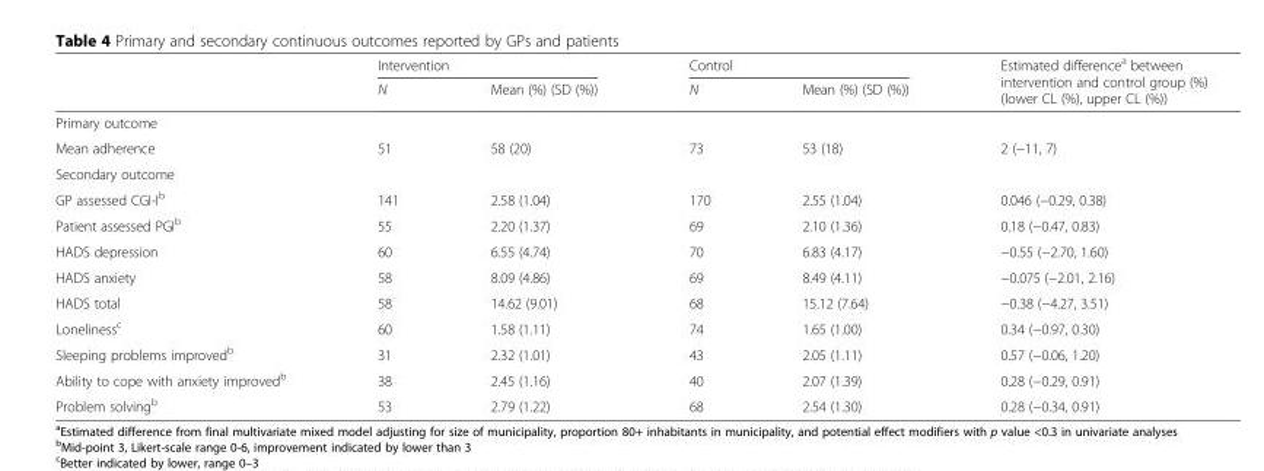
<table><thead><tr><td rowspan="2"></td><td colspan="2">Intervention</td><td colspan="2">Control</td><td rowspan="2">Estimated difference<sup>a</sup> between intervention and control group (%) (lower CL (%), upper CL (%))</td></tr><tr><td>N</td><td>Mean (%) (SD (%))</td><td>N</td><td>Mean (%) (SD (%))</td></tr></thead><tbody><tr><td colspan="6">Primary outcome</td></tr><tr><td>Mean adherence</td><td>51</td><td>58 (20)</td><td>73</td><td>53 (18)</td><td>2 (−11, 7)</td></tr><tr><td colspan="6">Secondary outcome</td></tr><tr><td>GP assessed CGI-I<sup>b</sup></td><td>141</td><td>2.58 (1.04)</td><td>170</td><td>2.55 (1.04)</td><td>0.046 (−0.29, 0.38)</td></tr><tr><td>Patient assessed PGI<sup>b</sup></td><td>55</td><td>2.20 (1.37)</td><td>69</td><td>2.10 (1.36)</td><td>0.18 (−0.47, 0.83)</td></tr><tr><td>HADS depression</td><td>60</td><td>6.55 (4.74)</td><td>70</td><td>6.83 (4.17)</td><td>−0.55 (−2.70, 1.60)</td></tr><tr><td>HADS anxiety</td><td>58</td><td>8.09 (4.86)</td><td>69</td><td>8.49 (4.11)</td><td>−0.075 (−2.01, 2.16)</td></tr><tr><td>HADS total</td><td>58</td><td>14.62 (9.01)</td><td>68</td><td>15.12 (7.64)</td><td>−0.38 (−4.27, 3.51)</td></tr><tr><td>Loneliness<sup>c</sup></td><td>60</td><td>1.58 (1.11)</td><td>74</td><td>1.65 (1.00)</td><td>0.34 (−0.97, 0.30)</td></tr><tr><td>Sleeping problems improved<sup>b</sup></td><td>31</td><td>2.32 (1.01)</td><td>43</td><td>2.05 (1.11)</td><td>0.57 (−0.06, 1.20)</td></tr><tr><td>Ability to cope with anxiety improved<sup>b</sup></td><td>38</td><td>2.45 (1.16)</td><td>40</td><td>2.07 (1.39)</td><td>0.28 (−0.29, 0.91)</td></tr><tr><td>Problem solving<sup>b</sup></td><td>53</td><td>2.79 (1.22)</td><td>68</td><td>2.54 (1.30)</td><td>0.28 (−0.34, 0.91)</td></tr></tbody></table>